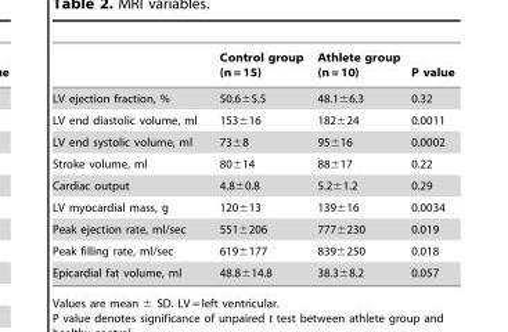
<table><thead><tr><td></td><td>Control group (n = 15)</td><td>Athlete group (n = 10)</td><td>P value</td></tr></thead><tbody><tr><td>LV ejection fraction, %</td><td>50.6±5.5</td><td>48.1±6.3</td><td>0.32</td></tr><tr><td>LV end diastolic volume, ml</td><td>153±16</td><td>182±24</td><td>0.0011</td></tr><tr><td>LV end systolic volume, ml</td><td>73±8</td><td>95±16</td><td>0.0002</td></tr><tr><td>Stroke volume, ml</td><td>80±14</td><td>88±17</td><td>0.22</td></tr><tr><td>Cardiac output</td><td>4.8±0.8</td><td>5.2±1.2</td><td>0.29</td></tr><tr><td>LV myocardial mass, g</td><td>120±13</td><td>139±16</td><td>0.0034</td></tr><tr><td>Peak ejection rate, ml/sec</td><td>551±206</td><td>777±230</td><td>0.019</td></tr><tr><td>Peak filling rate, ml/sec</td><td>619±177</td><td>839±250</td><td>0.018</td></tr><tr><td>Epicardial fat volume, ml</td><td>48.8±14.8</td><td>38.3±8.2</td><td>0.057</td></tr></tbody></table>